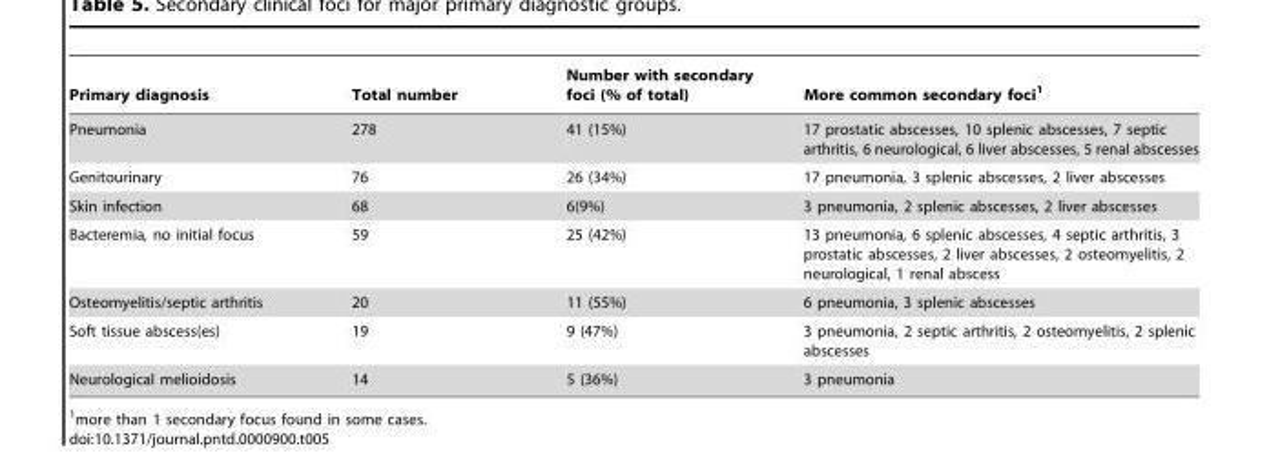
<table><thead><tr><td>Primary diagnosis</td><td>Total number</td><td>Number with secondary foci (% of total)</td><td>More common secondary foci<sup>1</sup></td></tr></thead><tbody><tr><td>Pneumonia</td><td>278</td><td>41 (15%)</td><td>17 prostatic abscesses, 10 splenic abscesses, 7 septic arthritis, 6 neurological, 6 liver abscesses, 5 renal abscesses</td></tr><tr><td>Genitourinary</td><td>76</td><td>26 (34%)</td><td>17 pneumonia, 3 splenic abscesses, 2 liver abscesses</td></tr><tr><td>Skin infection</td><td>68</td><td>6(9%)</td><td>3 pneumonia, 2 splenic abscesses, 2 liver abscesses</td></tr><tr><td>Bacteremia, no initial focus</td><td>59</td><td>25 (42%)</td><td>13 pneumonia, 6 splenic abscesses, 4 septic arthritis, 3 prostatic abscesses, 2 liver abscesses, 2 osteomyelitis, 2 neurological, 1 renal abscess</td></tr><tr><td>Osteomyelitis/septic arthritis</td><td>20</td><td>11 (55%)</td><td>6 pneumonia, 3 splenic abscesses</td></tr><tr><td>Soft tissue abscess(es)</td><td>19</td><td>9 (47%)</td><td>3 pneumonia, 2 septic arthritis, 2 osteomyelitis, 2 splenic abscesses</td></tr><tr><td>Neurological melioidosis</td><td>14</td><td>5 (36%)</td><td>3 pneumonia</td></tr></tbody></table>